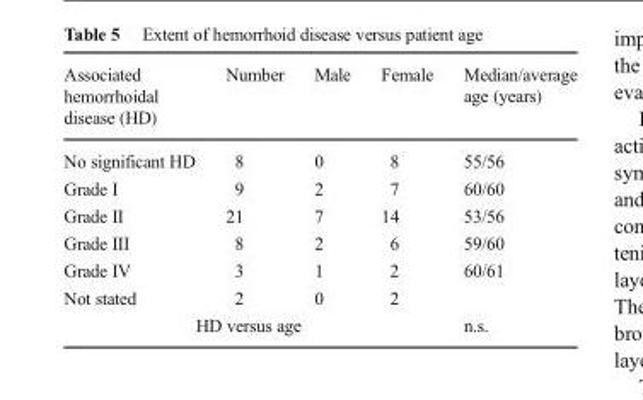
<table><thead><tr><td>Associated hemorrhoidal disease (HD)</td><td>Number</td><td>Male</td><td>Female</td><td>Median/average age (years)</td></tr></thead><tbody><tr><td>No significant HD</td><td>8</td><td>0</td><td>8</td><td>55/56</td></tr><tr><td>Grade I</td><td>9</td><td>2</td><td>7</td><td>60/60</td></tr><tr><td>Grade II</td><td>21</td><td>7</td><td>14</td><td>53/56</td></tr><tr><td>Grade III</td><td>8</td><td>2</td><td>6</td><td>59/60</td></tr><tr><td>Grade IV</td><td>3</td><td>1</td><td>2</td><td>60/61</td></tr><tr><td>Not stated</td><td>2</td><td>0</td><td>2</td><td></td></tr><tr><td colspan="4">HD versus age</td><td>n.s.</td></tr></tbody></table>